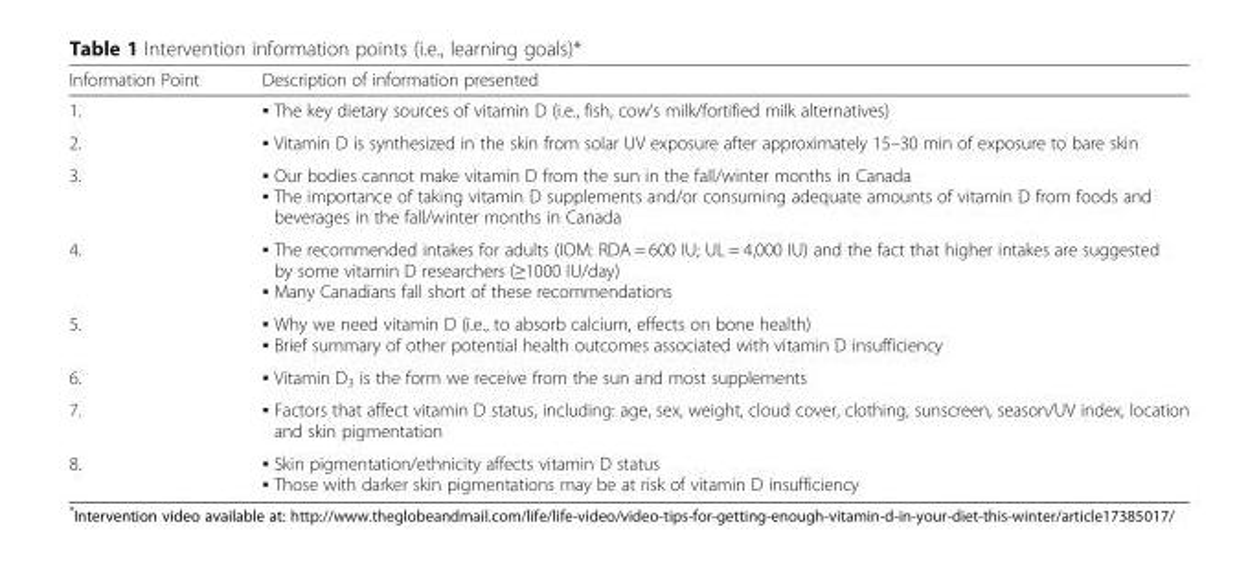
<table><thead><tr><td>Information Point</td><td>Description of information presented</td></tr></thead><tbody><tr><td>1.</td><td>▪ The key dietary sources of vitamin D (i.e., fish, cow’s milk/fortified milk alternatives)</td></tr><tr><td>2.</td><td>▪ Vitamin D is synthesized in the skin from solar UV exposure after approximately 15–30 min of exposure to bare skin</td></tr><tr><td>3.</td><td>▪ Our bodies cannot make vitamin D from the sun in the fall/winter months in Canada ▪ The importance of taking vitamin D supplements and/or consuming adequate amounts of vitamin D from foods and beverages in the fall/winter months in Canada</td></tr><tr><td>4.</td><td>▪ The recommended intakes for adults (IOM: RDA = 600 IU; UL = 4,000 IU) and the fact that higher intakes are suggested by some vitamin D researchers (≥1000 IU/day) ▪ Many Canadians fall short of these recommendations</td></tr><tr><td>5.</td><td>▪ Why we need vitamin D (i.e., to absorb calcium, effects on bone health) ▪ Brief summary of other potential health outcomes associated with vitamin D insufficiency</td></tr><tr><td>6.</td><td>▪ Vitamin D<sub>3</sub> is the form we receive from the sun and most supplements</td></tr><tr><td>7.</td><td>▪ Factors that affect vitamin D status, including: age, sex, weight, cloud cover, clothing, sunscreen, season/UV index, location and skin pigmentation</td></tr><tr><td>8.</td><td>▪ Skin pigmentation/ethnicity affects vitamin D status ▪ Those with darker skin pigmentations may be at risk of vitamin D insufficiency</td></tr></tbody></table>